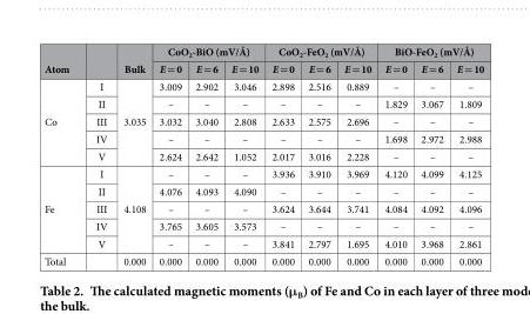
<table><thead><tr><td rowspan="2">Atom</td><td rowspan="2"></td><td rowspan="2">Bulk</td><td colspan="3">CoO<sub>2</sub>-BiO (mV/Å)</td><td colspan="3">CoO<sub>2</sub>-FeO<sub>2</sub> (mV/Å)</td><td colspan="3">BiO-FeO<sub>2</sub> (mV/Å)</td></tr><tr><td>E = 0</td><td>E = 6</td><td>E = 10</td><td>E = 0</td><td>E = 6</td><td>E = 10</td><td>E = 0</td><td>E = 6</td><td>E = 10</td></tr></thead><tbody><tr><td rowspan="5">Co</td><td>I</td><td rowspan="5">3.035</td><td>3.009</td><td>2.902</td><td>3.046</td><td>2.898</td><td>2.516</td><td>0.889</td><td>–</td><td>–</td><td>–</td></tr><tr><td>II</td><td>–</td><td>–</td><td>–</td><td>–</td><td>–</td><td>–</td><td>1.829</td><td>3.067</td><td>1.809</td></tr><tr><td>III</td><td>3.032</td><td>3.040</td><td>2.808</td><td>2.633</td><td>2.575</td><td>2.696</td><td>–</td><td>–</td><td>–</td></tr><tr><td>IV</td><td>–</td><td>–</td><td>–</td><td>–</td><td>–</td><td>–</td><td>1.698</td><td>2.972</td><td>2.988</td></tr><tr><td>V</td><td>2.624</td><td>2.642</td><td>1.052</td><td>2.017</td><td>3.016</td><td>2.228</td><td>–</td><td>–</td><td>–</td></tr><tr><td rowspan="5">Fe</td><td>I</td><td rowspan="5">4.108</td><td>–</td><td>–</td><td>–</td><td>3.936</td><td>3.910</td><td>3.969</td><td>4.120</td><td>4.099</td><td>4.125</td></tr><tr><td>II</td><td>4.076</td><td>4.093</td><td>4.090</td><td>–</td><td>–</td><td>–</td><td>–</td><td>–</td><td>–</td></tr><tr><td>III</td><td>–</td><td>–</td><td>–</td><td>3.624</td><td>3.644</td><td>3.741</td><td>4.084</td><td>4.092</td><td>4.096</td></tr><tr><td>IV</td><td>3.765</td><td>3.605</td><td>3.573</td><td>–</td><td>–</td><td>–</td><td>–</td><td>–</td><td>–</td></tr><tr><td>V</td><td>–</td><td>–</td><td>–</td><td>3.841</td><td>2.797</td><td>1.695</td><td>4.010</td><td>3.968</td><td>2.861</td></tr><tr><td>Total</td><td></td><td>0.000</td><td>0.000</td><td>0.000</td><td>0.000</td><td>0.000</td><td>0.000</td><td>0.000</td><td>0.000</td><td>0.000</td><td>0.000</td></tr></tbody></table>